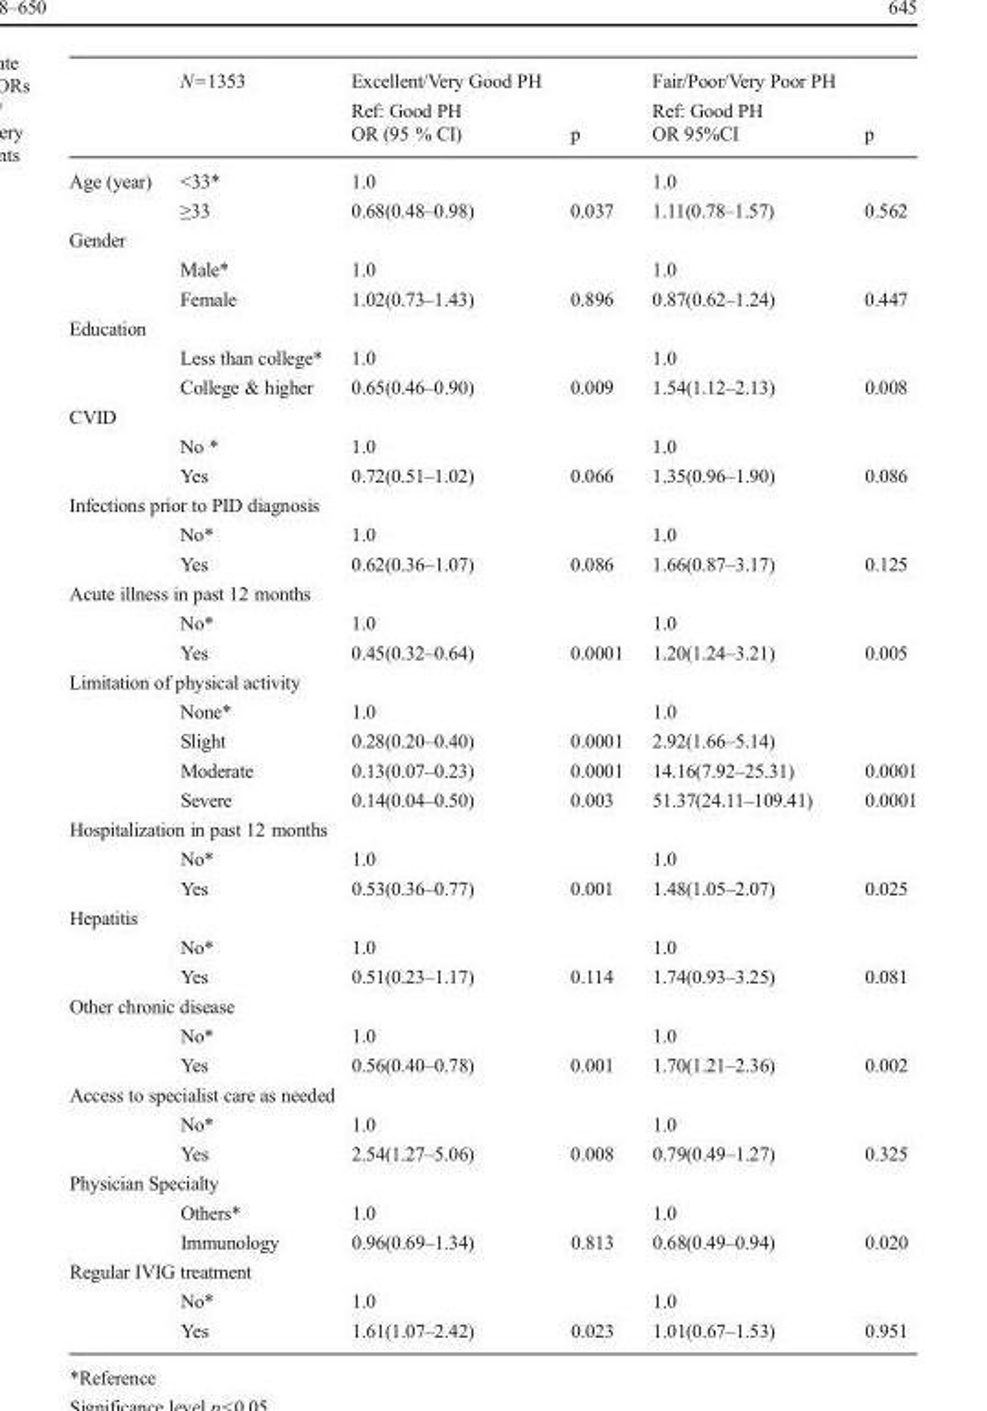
<table><thead><tr><td rowspan="2"></td><td rowspan="2">N=1353</td><td rowspan="2">Excellent/Very Good PH Ref: Good PH OR (95 % CI)</td><td rowspan="2">p</td><td rowspan="2">Fair/Poor/Very Poor PH Ref: Good PH OR 95%CI</td><td rowspan="2">p</td></tr><tr></tr></thead><tbody><tr><td rowspan="2">Age (year)</td><td>&lt;33*</td><td>1.0</td><td></td><td>1.0</td><td></td></tr><tr><td>≥33</td><td>0.68(0.48–0.98)</td><td>0.037</td><td>1.11(0.78–1.57)</td><td>0.562</td></tr><tr><td colspan="6">Gender</td></tr><tr><td rowspan="2"></td><td>Male*</td><td>1.0</td><td></td><td>1.0</td><td></td></tr><tr><td>Female</td><td>1.02(0.73–1.43)</td><td>0.896</td><td>0.87(0.62–1.24)</td><td>0.447</td></tr><tr><td colspan="6">Education</td></tr><tr><td rowspan="2"></td><td>Less than college*</td><td>1.0</td><td></td><td>1.0</td><td></td></tr><tr><td>College &amp; higher</td><td>0.65(0.46–0.90)</td><td>0.009</td><td>1.54(1.12–2.13)</td><td>0.008</td></tr><tr><td colspan="6">CVID</td></tr><tr><td rowspan="2"></td><td>No *</td><td>1.0</td><td></td><td>1.0</td><td></td></tr><tr><td>Yes</td><td>0.72(0.51–1.02)</td><td>0.066</td><td>1.35(0.96–1.90)</td><td>0.086</td></tr><tr><td colspan="6">Infections prior to PID diagnosis</td></tr><tr><td rowspan="2"></td><td>No*</td><td>1.0</td><td></td><td>1.0</td><td></td></tr><tr><td>Yes</td><td>0.62(0.36–1.07)</td><td>0.086</td><td>1.66(0.87–3.17)</td><td>0.125</td></tr><tr><td colspan="6">Acute illness in past 12 months</td></tr><tr><td rowspan="2"></td><td>No*</td><td>1.0</td><td></td><td>1.0</td><td></td></tr><tr><td>Yes</td><td>0.45(0.32–0.64)</td><td>0.0001</td><td>1.20(1.24–3.21)</td><td>0.005</td></tr><tr><td colspan="6">Limitation of physical activity</td></tr><tr><td rowspan="4"></td><td>None*</td><td>1.0</td><td></td><td>1.0</td><td></td></tr><tr><td>Slight</td><td>0.28(0.20–0.40)</td><td>0.0001</td><td>2.92(1.66–5.14)</td><td></td></tr><tr><td>Moderate</td><td>0.13(0.07–0.23)</td><td>0.0001</td><td>14.16(7.92–25.31)</td><td>0.0001</td></tr><tr><td>Severe</td><td>0.14(0.04–0.50)</td><td>0.003</td><td>51.37(24.11–109.41)</td><td>0.0001</td></tr><tr><td colspan="6">Hospitalization in past 12 months</td></tr><tr><td rowspan="2"></td><td>No*</td><td>1.0</td><td></td><td>1.0</td><td></td></tr><tr><td>Yes</td><td>0.53(0.36–0.77)</td><td>0.001</td><td>1.48(1.05–2.07)</td><td>0.025</td></tr><tr><td colspan="6">Hepatitis</td></tr><tr><td rowspan="2"></td><td>No*</td><td>1.0</td><td></td><td>1.0</td><td></td></tr><tr><td>Yes</td><td>0.51(0.23–1.17)</td><td>0.114</td><td>1.74(0.93–3.25)</td><td>0.081</td></tr><tr><td colspan="6">Other chronic disease</td></tr><tr><td rowspan="2"></td><td>No*</td><td>1.0</td><td></td><td>1.0</td><td></td></tr><tr><td>Yes</td><td>0.56(0.40–0.78)</td><td>0.001</td><td>1.70(1.21–2.36)</td><td>0.002</td></tr><tr><td colspan="6">Access to specialist care as needed</td></tr><tr><td rowspan="2"></td><td>No*</td><td>1.0</td><td></td><td>1.0</td><td></td></tr><tr><td>Yes</td><td>2.54(1.27–5.06)</td><td>0.008</td><td>0.79(0.49–1.27)</td><td>0.325</td></tr><tr><td colspan="6">Physician Specialty</td></tr><tr><td rowspan="2"></td><td>Others*</td><td>1.0</td><td></td><td>1.0</td><td></td></tr><tr><td>Immunology</td><td>0.96(0.69–1.34)</td><td>0.813</td><td>0.68(0.49–0.94)</td><td>0.020</td></tr><tr><td colspan="6">Regular IVIG treatment</td></tr><tr><td rowspan="2"></td><td>No*</td><td>1.0</td><td></td><td>1.0</td><td></td></tr><tr><td>Yes</td><td>1.61(1.07–2.42)</td><td>0.023</td><td>1.01(0.67–1.53)</td><td>0.951</td></tr></tbody></table>